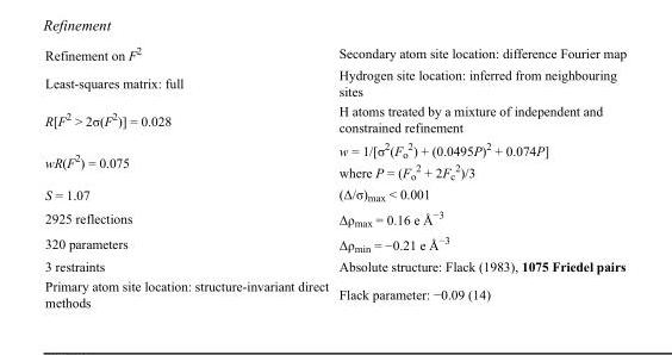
<table><tbody><tr><td>Refinement on F<sup>2</sup></td><td>Secondary atom site location: difference Fourier map</td></tr><tr><td>Least-squares matrix: full</td><td>Hydrogen site location: inferred from neighbouring sites</td></tr><tr><td>R[F<sup>2</sup> &gt; 2σ(F<sup>2</sup>)] = 0.028</td><td>H atoms treated by a mixture of independent and constrained refinement</td></tr><tr><td>wR(F<sup>2</sup>) = 0.075</td><td>w = 1/[σ<sup>2</sup>(F<sub>o</sub> <sup>2</sup>) + (0.0495P)<sup>2</sup> + 0.074P] where P = (F<sub>o</sub> <sup>2</sup> + 2F<sub>c</sub> <sup>2</sup>)/3</td></tr><tr><td>S = 1.07</td><td>(Δ/σ)<sub>max</sub> &lt; 0.001</td></tr><tr><td>2925 reflections</td><td>Δρ<sub>max</sub> = 0.16 e Å<sup>−3</sup></td></tr><tr><td>320 parameters</td><td>Δρ<sub>min</sub> = −0.21 e Å<sup>−3</sup></td></tr><tr><td>3 restraints</td><td>Absolute structure: Flack (1983), 1075 Friedel pairs</td></tr><tr><td>Primary atom site location: structure-invariant direct methods</td><td>Flack parameter: −0.09 (14)</td></tr></tbody></table>